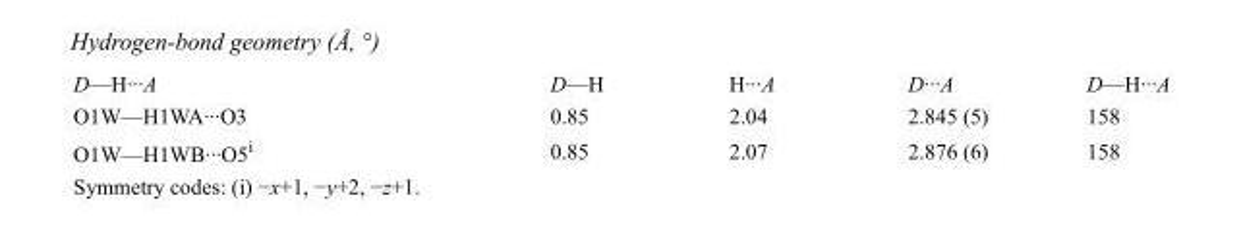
<table><tbody><tr><td>D—H···A</td><td>D—H</td><td>H···A</td><td>D···A</td><td>D—H···A</td></tr><tr><td>O1W—H1WA···O3</td><td>0.85</td><td>2.04</td><td>2.845 (5)</td><td>158</td></tr><tr><td>O1W—H1WB···O5<sup>i</sup></td><td>0.85</td><td>2.07</td><td>2.876 (6)</td><td>158</td></tr></tbody></table>